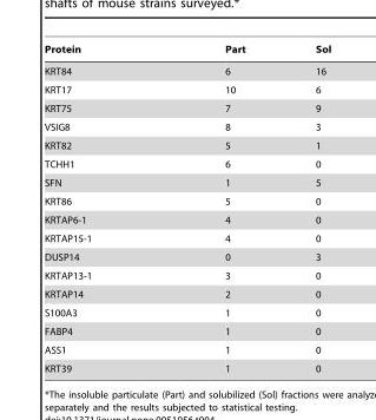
<table><thead><tr><td>Protein</td><td>Part</td><td>Sol</td></tr></thead><tbody><tr><td>KRT84</td><td>6</td><td>16</td></tr><tr><td>KRT17</td><td>10</td><td>6</td></tr><tr><td>KRT75</td><td>7</td><td>9</td></tr><tr><td>VSIG8</td><td>8</td><td>3</td></tr><tr><td>KRT82</td><td>5</td><td>1</td></tr><tr><td>TCHH1</td><td>6</td><td>0</td></tr><tr><td>SFN</td><td>1</td><td>5</td></tr><tr><td>KRT86</td><td>5</td><td>0</td></tr><tr><td>KRTAP6-1</td><td>4</td><td>0</td></tr><tr><td>KRTAP15-1</td><td>4</td><td>0</td></tr><tr><td>DUSP14</td><td>0</td><td>3</td></tr><tr><td>KRTAP13-1</td><td>3</td><td>0</td></tr><tr><td>KRTAP14</td><td>2</td><td>0</td></tr><tr><td>S100A3</td><td>1</td><td>0</td></tr><tr><td>FABP4</td><td>1</td><td>0</td></tr><tr><td>ASS1</td><td>1</td><td>0</td></tr><tr><td>KRT39</td><td>1</td><td>0</td></tr></tbody></table>